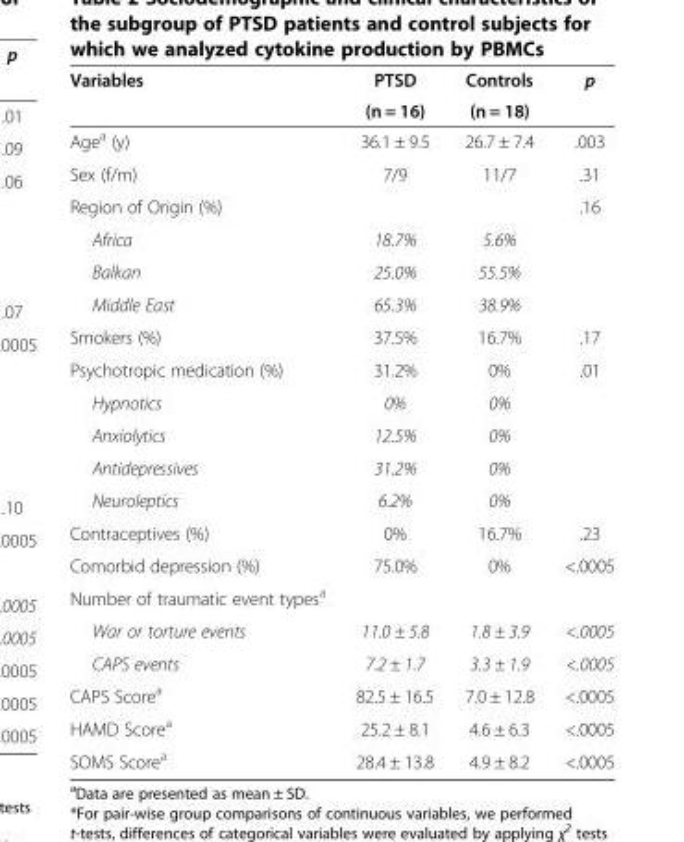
<table><thead><tr><td rowspan="2">Variables</td><td rowspan="2">PTSD (n = 16)</td><td rowspan="2">Controls (n = 18)</td><td rowspan="2">p</td></tr><tr></tr></thead><tbody><tr><td>Age<sup>a</sup> (y)</td><td>36.1 ± 9.5</td><td>26.7 ± 7.4</td><td>.003</td></tr><tr><td>Sex (f/m)</td><td>7/9</td><td>11/7</td><td>.31</td></tr><tr><td>Region of Origin (%)</td><td></td><td></td><td>.16</td></tr><tr><td>Africa</td><td>18.7%</td><td>5.6%</td><td></td></tr><tr><td>Balkan</td><td>25.0%</td><td>55.5%</td><td></td></tr><tr><td>Middle East</td><td>65.3%</td><td>38.9%</td><td></td></tr><tr><td>Smokers (%)</td><td>37.5%</td><td>16.7%</td><td>.17</td></tr><tr><td>Psychotropic medication (%)</td><td>31.2%</td><td>0%</td><td>.01</td></tr><tr><td>Hypnotics</td><td>0%</td><td>0%</td><td></td></tr><tr><td>Anxiolytics</td><td>12.5%</td><td>0%</td><td></td></tr><tr><td>Antidepressives</td><td>31.2%</td><td>0%</td><td></td></tr><tr><td>Neuroleptics</td><td>6.2%</td><td>0%</td><td></td></tr><tr><td>Contraceptives (%)</td><td>0%</td><td>16.7%</td><td>.23</td></tr><tr><td>Comorbid depression (%)</td><td>75.0%</td><td>0%</td><td>&lt;.0005</td></tr><tr><td colspan="4">Number of traumatic event types<sup>a</sup></td></tr><tr><td>War or torture events</td><td>11.0 ± 5.8</td><td>1.8 ± 3.9</td><td>&lt;.0005</td></tr><tr><td>CAPS events</td><td>7.2 ± 1.7</td><td>3.3 ± 1.9</td><td>&lt;.0005</td></tr><tr><td>CAPS Score<sup>a</sup></td><td>82.5 ± 16.5</td><td>7.0 ± 12.8</td><td>&lt;.0005</td></tr><tr><td>HAMD Score<sup>a</sup></td><td>25.2 ± 8.1</td><td>4.6 ± 6.3</td><td>&lt;.0005</td></tr><tr><td>SOMS Score<sup>a</sup></td><td>28.4 ± 13.8</td><td>4.9 ± 8.2</td><td>&lt;.0005</td></tr></tbody></table>